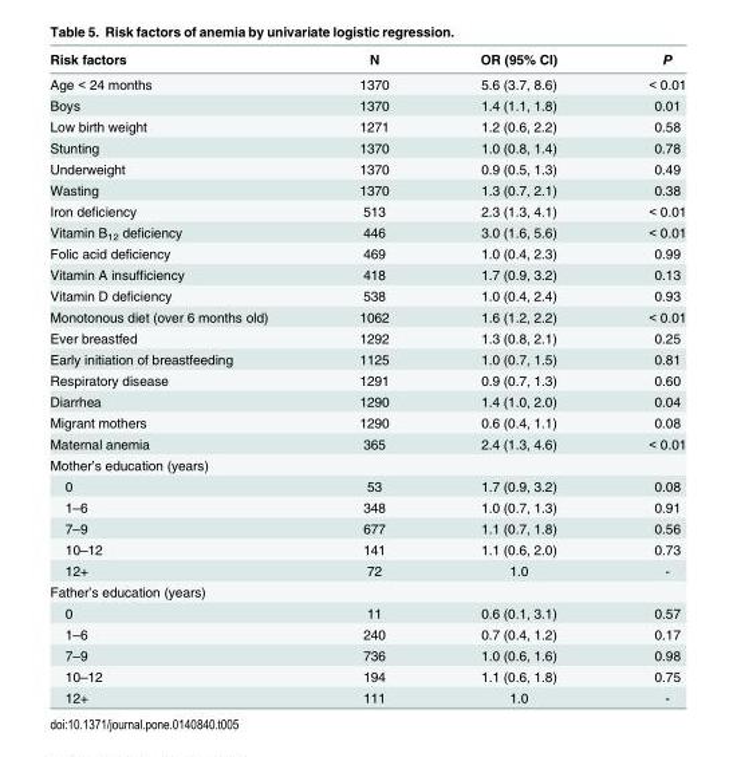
<table><thead><tr><td>Risk factors</td><td>N</td><td>OR (95% CI)</td><td>P</td></tr></thead><tbody><tr><td>Age &lt; 24 months</td><td>1370</td><td>5.6 (3.7, 8.6)</td><td>&lt; 0.01</td></tr><tr><td>Boys</td><td>1370</td><td>1.4 (1.1, 1.8)</td><td>0.01</td></tr><tr><td>Low birth weight</td><td>1271</td><td>1.2 (0.6, 2.2)</td><td>0.58</td></tr><tr><td>Stunting</td><td>1370</td><td>1.0 (0.8, 1.4)</td><td>0.78</td></tr><tr><td>Underweight</td><td>1370</td><td>0.9 (0.5, 1.3)</td><td>0.49</td></tr><tr><td>Wasting</td><td>1370</td><td>1.3 (0.7, 2.1)</td><td>0.38</td></tr><tr><td>Iron deficiency</td><td>513</td><td>2.3 (1.3, 4.1)</td><td>&lt; 0.01</td></tr><tr><td>Vitamin B<sub>12</sub> deficiency</td><td>446</td><td>3.0 (1.6, 5.6)</td><td>&lt; 0.01</td></tr><tr><td>Folic acid deficiency</td><td>469</td><td>1.0 (0.4, 2.3)</td><td>0.99</td></tr><tr><td>Vitamin A insufficiency</td><td>418</td><td>1.7 (0.9, 3.2)</td><td>0.13</td></tr><tr><td>Vitamin D deficiency</td><td>538</td><td>1.0 (0.4, 2.4)</td><td>0.93</td></tr><tr><td>Monotonous diet (over 6 months old)</td><td>1062</td><td>1.6 (1.2, 2.2)</td><td>&lt; 0.01</td></tr><tr><td>Ever breastfed</td><td>1292</td><td>1.3 (0.8, 2.1)</td><td>0.25</td></tr><tr><td>Early initiation of breastfeeding</td><td>1125</td><td>1.0 (0.7, 1.5)</td><td>0.81</td></tr><tr><td>Respiratory disease</td><td>1291</td><td>0.9 (0.7, 1.3)</td><td>0.60</td></tr><tr><td>Diarrhea</td><td>1290</td><td>1.4 (1.0, 2.0)</td><td>0.04</td></tr><tr><td>Migrant mothers</td><td>1290</td><td>0.6 (0.4, 1.1)</td><td>0.08</td></tr><tr><td>Maternal anemia</td><td>365</td><td>2.4 (1.3, 4.6)</td><td>&lt; 0.01</td></tr><tr><td colspan="4">Mother’s education (years)</td></tr><tr><td>0</td><td>53</td><td>1.7 (0.9, 3.2)</td><td>0.08</td></tr><tr><td>1–6</td><td>348</td><td>1.0 (0.7, 1.3)</td><td>0.91</td></tr><tr><td>7–9</td><td>677</td><td>1.1 (0.7, 1.8)</td><td>0.56</td></tr><tr><td>10–12</td><td>141</td><td>1.1 (0.6, 2.0)</td><td>0.73</td></tr><tr><td>12+</td><td>72</td><td>1.0</td><td>-</td></tr><tr><td colspan="4">Father’s education (years)</td></tr><tr><td>0</td><td>11</td><td>0.6 (0.1, 3.1)</td><td>0.57</td></tr><tr><td>1–6</td><td>240</td><td>0.7 (0.4, 1.2)</td><td>0.17</td></tr><tr><td>7–9</td><td>736</td><td>1.0 (0.6, 1.6)</td><td>0.98</td></tr><tr><td>10–12</td><td>194</td><td>1.1 (0.6, 1.8)</td><td>0.75</td></tr><tr><td>12+</td><td>111</td><td>1.0</td><td>-</td></tr></tbody></table>